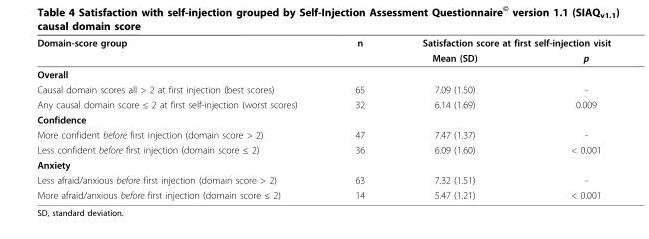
<table><thead><tr><td rowspan="2">Domain-score group</td><td rowspan="2">n</td><td colspan="2">Satisfaction score at first self-injection visit</td></tr><tr><td>Mean (SD)</td><td>p</td></tr></thead><tbody><tr><td colspan="4">Overall</td></tr><tr><td>Causal domain scores all &gt; 2 at first injection (best scores)</td><td>65</td><td>7.09 (1.50)</td><td>-</td></tr><tr><td>Any causal domain score ≤ 2 at first self-injection (worst scores)</td><td>32</td><td>6.14 (1.69)</td><td>0.009</td></tr><tr><td colspan="4">Confidence</td></tr><tr><td>More confident before first injection (domain score &gt; 2)</td><td>47</td><td>7.47 (1.37)</td><td>-</td></tr><tr><td>Less confident before first injection (domain score ≤ 2)</td><td>36</td><td>6.09 (1.60)</td><td>&lt; 0.001</td></tr><tr><td colspan="4">Anxiety</td></tr><tr><td>Less afraid/anxious before first injection (domain score &gt; 2)</td><td>63</td><td>7.32 (1.51)</td><td>-</td></tr><tr><td>More afraid/anxious before first injection (domain score ≤ 2)</td><td>14</td><td>5.47 (1.21)</td><td>&lt; 0.001</td></tr></tbody></table>